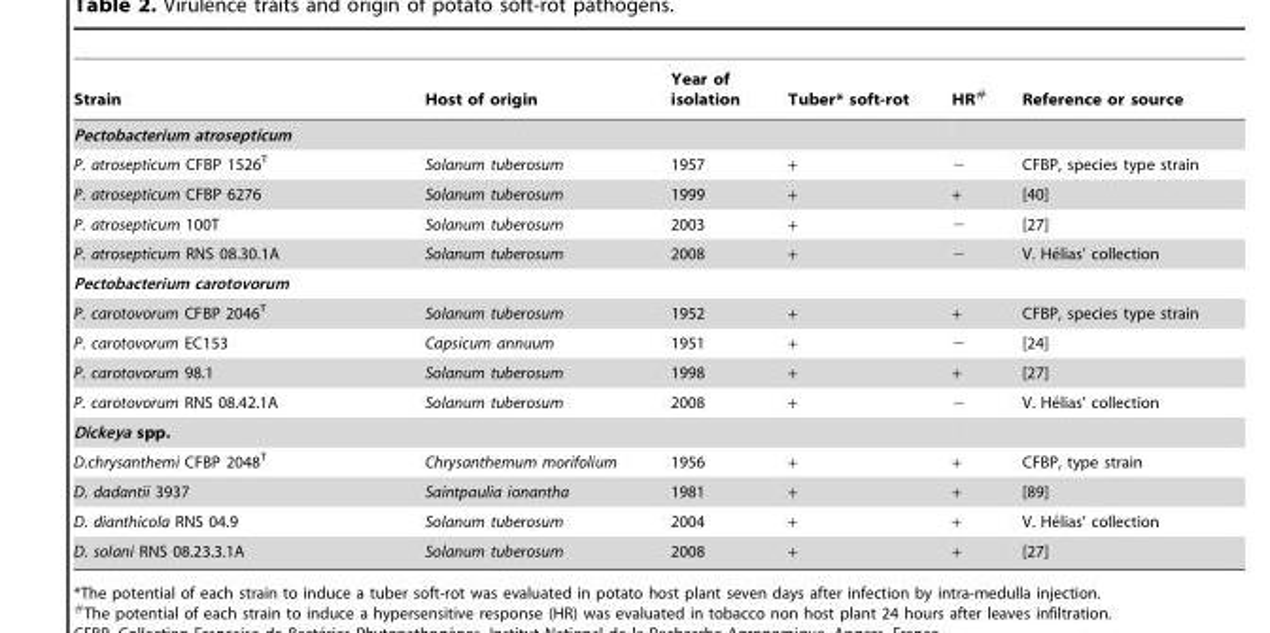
<table><thead><tr><td>Strain</td><td>Host of origin</td><td>Year of isolation</td><td>Tuber* soft-rot</td><td>HR#</td><td>Reference or source</td></tr></thead><tbody><tr><td colspan="6">Pectobacterium atrosepticum</td></tr><tr><td>P. atrosepticum CFBP 1526<sup>T</sup></td><td>Solanum tuberosum</td><td>1957</td><td>+</td><td>−</td><td>CFBP, species type strain</td></tr><tr><td>P. atrosepticum CFBP 6276</td><td>Solanum tuberosum</td><td>1999</td><td>+</td><td>+</td><td>[40]</td></tr><tr><td>P. atrosepticum 100T</td><td>Solanum tuberosum</td><td>2003</td><td>+</td><td>−</td><td>[27]</td></tr><tr><td>P. atrosepticum RNS 08.30.1A</td><td>Solanum tuberosum</td><td>2008</td><td>+</td><td>−</td><td>V. He´lias’ collection</td></tr><tr><td colspan="6">Pectobacterium carotovorum</td></tr><tr><td>P. carotovorum CFBP 2046<sup>T</sup></td><td>Solanum tuberosum</td><td>1952</td><td>+</td><td>+</td><td>CFBP, species type strain</td></tr><tr><td>P. carotovorum EC153</td><td>Capsicum annuum</td><td>1951</td><td>+</td><td>−</td><td>[24]</td></tr><tr><td>P. carotovorum 98.1</td><td>Solanum tuberosum</td><td>1998</td><td>+</td><td>+</td><td>[27]</td></tr><tr><td>P. carotovorum RNS 08.42.1A</td><td>Solanum tuberosum</td><td>2008</td><td>+</td><td>−</td><td>V. He´lias’ collection</td></tr><tr><td colspan="6">Dickeya spp.</td></tr><tr><td>D.chrysanthemi CFBP 2048<sup>T</sup></td><td>Chrysanthemum morifolium</td><td>1956</td><td>+</td><td>+</td><td>CFBP, type strain</td></tr><tr><td>D. dadantii 3937</td><td>Saintpaulia ionantha</td><td>1981</td><td>+</td><td>+</td><td>[89]</td></tr><tr><td>D. dianthicola RNS 04.9</td><td>Solanum tuberosum</td><td>2004</td><td>+</td><td>+</td><td>V. He´lias’ collection</td></tr><tr><td>D. solani RNS 08.23.3.1A</td><td>Solanum tuberosum</td><td>2008</td><td>+</td><td>+</td><td>[27]</td></tr></tbody></table>